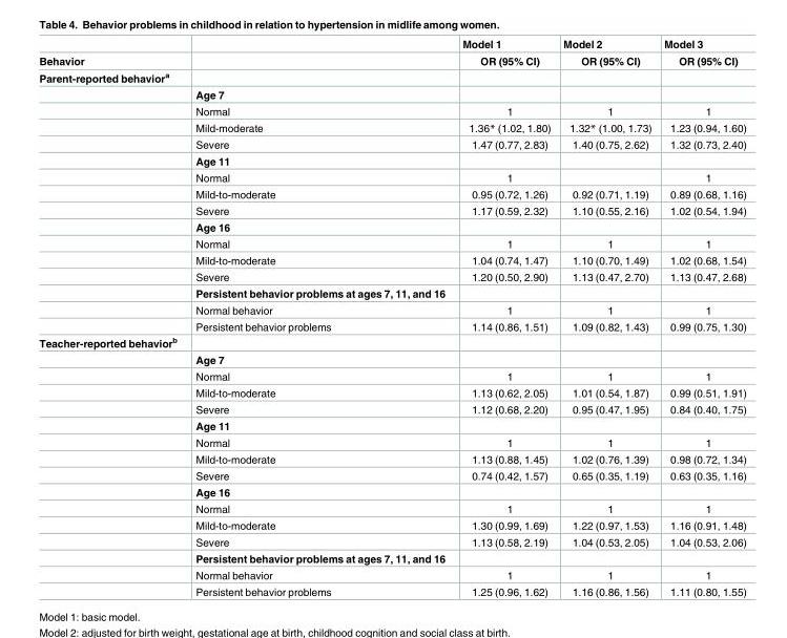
<table><thead><tr><td rowspan="2">Behavior</td><td rowspan="2"></td><td rowspan="2">Model 1 OR (95% CI)</td><td rowspan="2">Model 2 OR (95% CI)</td><td rowspan="2">Model 3 OR (95% CI)</td></tr><tr></tr></thead><tbody><tr><td colspan="5">Parent-reported behavior<sup>a</sup></td></tr><tr><td></td><td>Age 7</td><td></td><td></td><td></td></tr><tr><td></td><td>Normal</td><td>1</td><td>1</td><td>1</td></tr><tr><td></td><td>Mild-moderate</td><td>1.36* (1.02, 1.80)</td><td>1.32* (1.00, 1.73)</td><td>1.23 (0.94, 1.60)</td></tr><tr><td></td><td>Severe</td><td>1.47 (0.77, 2.83)</td><td>1.40 (0.75, 2.62)</td><td>1.32 (0.73, 2.40)</td></tr><tr><td></td><td>Age 11</td><td></td><td></td><td></td></tr><tr><td></td><td>Normal</td><td>1</td><td></td><td>1</td></tr><tr><td></td><td>Mild-to-moderate</td><td>0.95 (0.72, 1.26)</td><td>0.92 (0.71, 1.19)</td><td>0.89 (0.68, 1.16)</td></tr><tr><td></td><td>Severe</td><td>1.17 (0.59, 2.32)</td><td>1.10 (0.55, 2.16)</td><td>1.02 (0.54, 1.94)</td></tr><tr><td></td><td>Age 16</td><td></td><td></td><td></td></tr><tr><td></td><td>Normal</td><td>1</td><td>1</td><td>1</td></tr><tr><td></td><td>Mild-to-moderate</td><td>1.04 (0.74, 1.47)</td><td>1.10 (0.70, 1.49)</td><td>1.02 (0.68, 1.54)</td></tr><tr><td></td><td>Severe</td><td>1.20 (0.50, 2.90)</td><td>1.13 (0.47, 2.70)</td><td>1.13 (0.47, 2.68)</td></tr><tr><td></td><td>Persistent behavior problems at ages 7, 11, and 16</td><td></td><td></td><td></td></tr><tr><td></td><td>Normal behavior</td><td>1</td><td>1</td><td>1</td></tr><tr><td></td><td>Persistent behavior problems</td><td>1.14 (0.86, 1.51)</td><td>1.09 (0.82, 1.43)</td><td>0.99 (0.75, 1.30)</td></tr><tr><td colspan="5">Teacher-reported behavior<sup>b</sup></td></tr><tr><td></td><td>Age 7</td><td></td><td></td><td></td></tr><tr><td></td><td>Normal</td><td>1</td><td>1</td><td>1</td></tr><tr><td></td><td>Mild-to-moderate</td><td>1.13 (0.62, 2.05)</td><td>1.01 (0.54, 1.87)</td><td>0.99 (0.51, 1.91)</td></tr><tr><td></td><td>Severe</td><td>1.12 (0.68, 2.20)</td><td>0.95 (0.47, 1.95)</td><td>0.84 (0.40, 1.75)</td></tr><tr><td></td><td>Age 11</td><td></td><td></td><td></td></tr><tr><td></td><td>Normal</td><td>1</td><td>1</td><td>1</td></tr><tr><td></td><td>Mild-to-moderate</td><td>1.13 (0.88, 1.45)</td><td>1.02 (0.76, 1.39)</td><td>0.98 (0.72, 1.34)</td></tr><tr><td></td><td>Severe</td><td>0.74 (0.42, 1.57)</td><td>0.65 (0.35, 1.19)</td><td>0.63 (0.35, 1.16)</td></tr><tr><td></td><td>Age 16</td><td></td><td></td><td></td></tr><tr><td></td><td>Normal</td><td>1</td><td>1</td><td>1</td></tr><tr><td></td><td>Mild-to-moderate</td><td>1.30 (0.99, 1.69)</td><td>1.22 (0.97, 1.53)</td><td>1.16 (0.91, 1.48)</td></tr><tr><td></td><td>Severe</td><td>1.13 (0.58, 2.19)</td><td>1.04 (0.53, 2.05)</td><td>1.04 (0.53, 2.06)</td></tr><tr><td></td><td>Persistent behavior problems at ages 7, 11, and 16</td><td></td><td></td><td></td></tr><tr><td></td><td>Normal behavior</td><td>1</td><td>1</td><td>1</td></tr><tr><td></td><td>Persistent behavior problems</td><td>1.25 (0.96, 1.62)</td><td>1.16 (0.86, 1.56)</td><td>1.11 (0.80, 1.55)</td></tr></tbody></table>